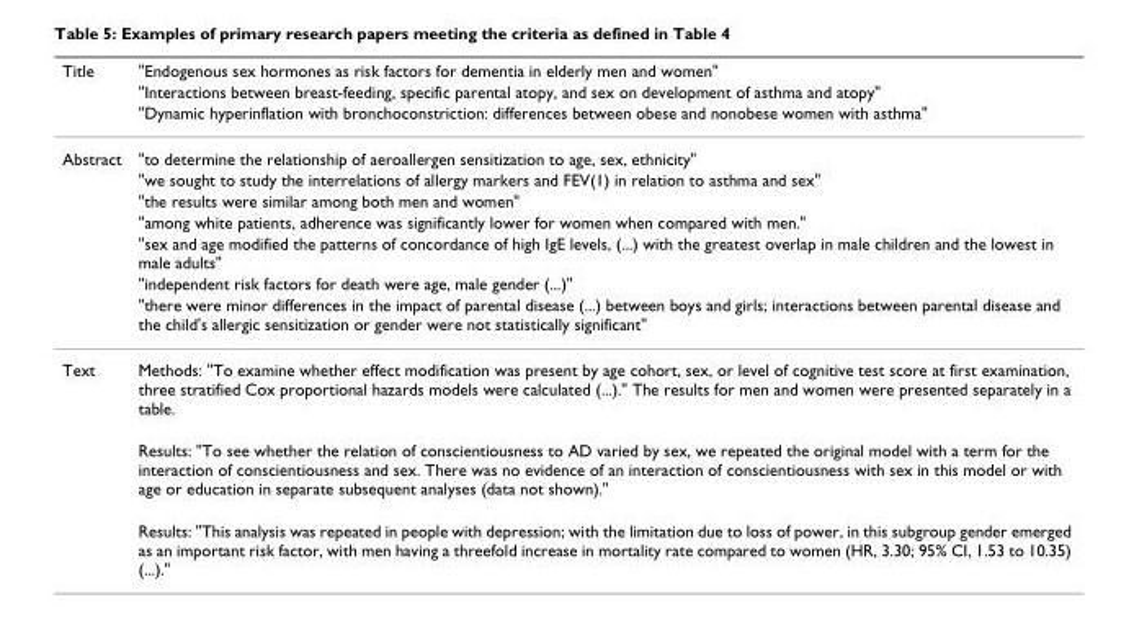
<table><thead><tr><td rowspan="3">Title</td><td rowspan="3">&quot;Endogenous sex hormones as risk factors for dementia in elderly men and women&quot; &quot;Interactions between breast-feeding, specific parental atopy, and sex on development of asthma and atopy&quot; &quot;Dynamic hyperinflation with bronchoconstriction: differences between obese and nonobese women with asthma&quot;</td></tr><tr></tr><tr></tr></thead><tbody><tr><td rowspan="7">Abstract</td><td>&quot;to determine the relationship of aeroallergen sensitization to age, sex, ethnicity&quot;</td></tr><tr><td>&quot;we sought to study the interrelations of allergy markers and FEV(1) in relation to asthma and sex&quot;</td></tr><tr><td>&quot;the results were similar among both men and women&quot;</td></tr><tr><td>&quot;among white patients, adherence was significantly lower for women when compared with men.&quot;</td></tr><tr><td>&quot;sex and age modified the patterns of concordance of high IgE levels, (...) with the greatest overlap in male children and the lowest in male adults&quot;</td></tr><tr><td>&quot;independent risk factors for death were age, male gender (...)&quot;</td></tr><tr><td>&quot;there were minor differences in the impact of parental disease (...) between boys and girls; interactions between parental disease and the child&#x27;s allergic sensitization or gender were not statistically significant&quot;</td></tr><tr><td rowspan="3">Text</td><td>Methods: &quot;To examine whether effect modification was present by age cohort, sex, or level of cognitive test score at first examination, three stratified Cox proportional hazards models were calculated (...).&quot; The results for men and women were presented separately in a table.</td></tr><tr><td>Results: &quot;To see whether the relation of conscientiousness to AD varied by sex, we repeated the original model with a term for the interaction of conscientiousness and sex. There was no evidence of an interaction of conscientiousness with sex in this model or with age or education in separate subsequent analyses (data not shown).&quot;</td></tr><tr><td>Results: &quot;This analysis was repeated in people with depression; with the limitation due to loss of power, in this subgroup gender emerged as an important risk factor, with men having a threefold increase in mortality rate compared to women (HR, 3.30; 95% CI, 1.53 to 10.35) (...).&quot;</td></tr></tbody></table>